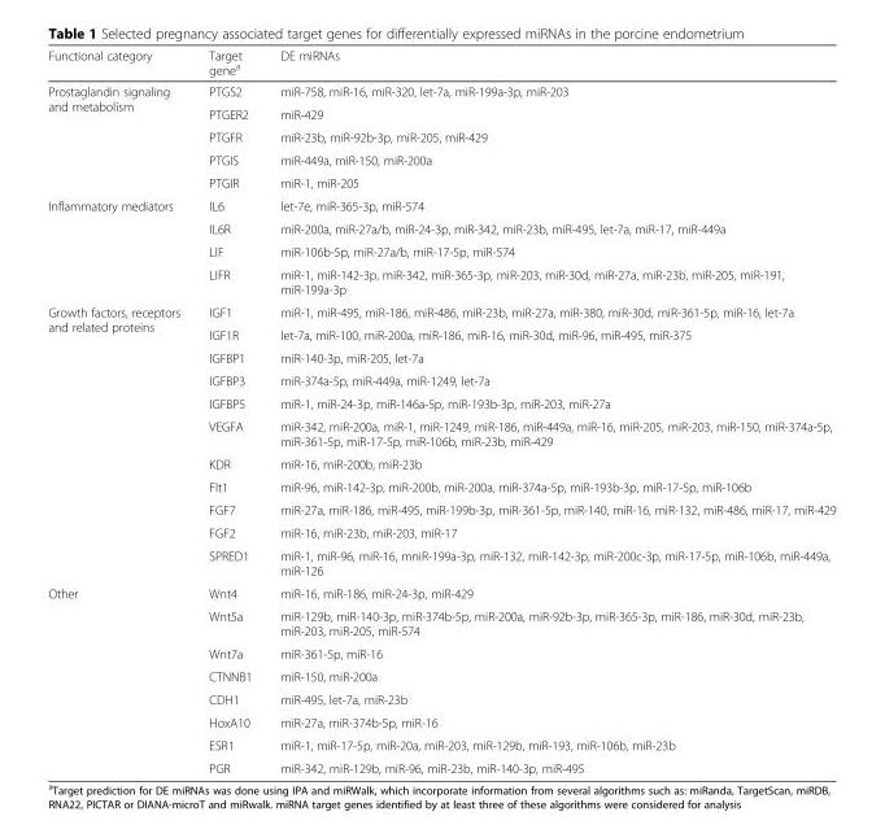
<table><thead><tr><td>Functional category</td><td>Target gene<sup>a</sup></td><td>DE miRNAs</td></tr></thead><tbody><tr><td rowspan="5">Prostaglandin signaling and metabolism</td><td>PTGS2</td><td>miR-758, miR-16, miR-320, let-7a, miR-199a-3p, miR-203</td></tr><tr><td>PTGER2</td><td>miR-429</td></tr><tr><td>PTGFR</td><td>miR-23b, miR-92b-3p, miR-205, miR-429</td></tr><tr><td>PTGIS</td><td>miR-449a, miR-150, miR-200a</td></tr><tr><td>PTGIR</td><td>miR-1, miR-205</td></tr><tr><td rowspan="4">Inflammatory mediators</td><td>IL6</td><td>let-7e, miR-365-3p, miR-574</td></tr><tr><td>IL6R</td><td>miR-200a, miR-27a/b, miR-24-3p, miR-342, miR-23b, miR-495, let-7a, miR-17, miR-449a</td></tr><tr><td>LIF</td><td>miR-106b-5p, miR-27a/b, miR-17-5p, miR-574</td></tr><tr><td>LIFR</td><td>miR-1, miR-142-3p, miR-342, miR-365-3p, miR-203, miR-30d, miR-27a, miR-23b, miR-205, miR-191, miR-199a-3p</td></tr><tr><td rowspan="11">Growth factors, receptors and related proteins</td><td>IGF1</td><td>miR-1, miR-495, miR-186, miR-486, miR-23b, miR-27a, miR-380, miR-30d, miR-361-5p, miR-16, let-7a</td></tr><tr><td>IGF1R</td><td>let-7a, miR-100, miR-200a, miR-186, miR-16, miR-30d, miR-96, miR-495, miR-375</td></tr><tr><td>IGFBP1</td><td>miR-140-3p, miR-205, let-7a</td></tr><tr><td>IGFBP3</td><td>miR-374a-5p, miR-449a, miR-1249, let-7a</td></tr><tr><td>IGFBP5</td><td>miR-1, miR-24-3p, miR-146a-5p, miR-193b-3p, miR-203, miR-27a</td></tr><tr><td>VEGFA</td><td>miR-342, miR-200a, miR-1, miR-1249, miR-186, miR-449a, miR-16, miR-205, miR-203, miR-150, miR-374a-5p, miR-361-5p, miR-17-5p, miR-106b, miR-23b, miR-429</td></tr><tr><td>KDR</td><td>miR-16, miR-200b, miR-23b</td></tr><tr><td>Flt1</td><td>miR-96, miR-142-3p, miR-200b, miR-200a, miR-374a-5p, miR-193b-3p, miR-17-5p, miR-106b</td></tr><tr><td>FGF7</td><td>miR-27a, miR-186, miR-495, miR-199b-3p, miR-361-5p, miR-140, miR-16, miR-132, miR-486, miR-17, miR-429</td></tr><tr><td>FGF2</td><td>miR-16, miR-23b, miR-203, miR-17</td></tr><tr><td>SPRED1</td><td>miR-1, miR-96, miR-16, mniR-199a-3p, miR-132, miR-142-3p, miR-200c-3p, miR-17-5p, miR-106b, miR-449a, miR-126</td></tr><tr><td rowspan="8">Other</td><td>Wnt4</td><td>miR-16, miR-186, miR-24-3p, miR-429</td></tr><tr><td>Wnt5a</td><td>miR-129b, miR-140-3p, miR-374b-5p, miR-200a, miR-92b-3p, miR-365-3p, miR-186, miR-30d, miR-23b, miR-203, miR-205, miR-574</td></tr><tr><td>Wnt7a</td><td>miR-361-5p, miR-16</td></tr><tr><td>CTNNB1</td><td>miR-150, miR-200a</td></tr><tr><td>CDH1</td><td>miR-495, let-7a, miR-23b</td></tr><tr><td>HoxA10</td><td>miR-27a, miR-374b-5p, miR-16</td></tr><tr><td>ESR1</td><td>miR-1, miR-17-5p, miR-20a, miR-203, miR-129b, miR-193, miR-106b, miR-23b</td></tr><tr><td>PGR</td><td>miR-342, miR-129b, miR-96, miR-23b, miR-140-3p, miR-495</td></tr></tbody></table>